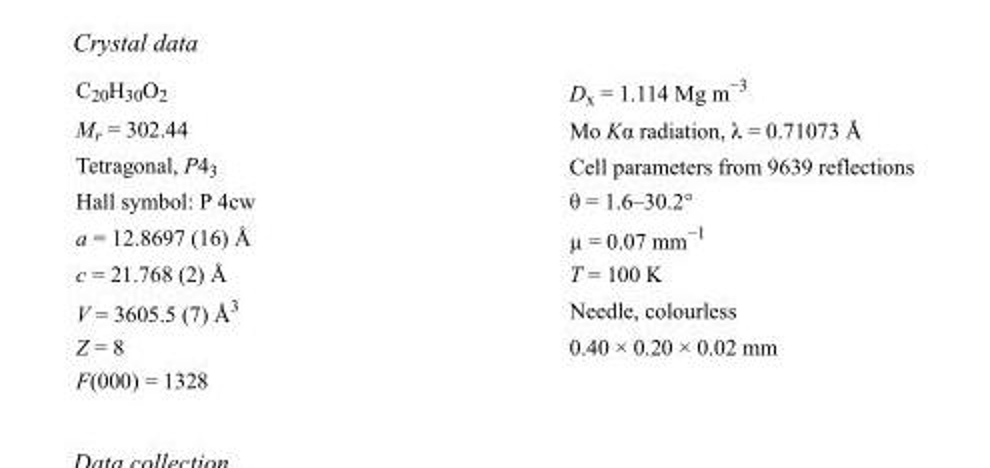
<table><tbody><tr><td>C<sub>20</sub>H<sub>30</sub>O<sub>2</sub></td><td>D<sub>x</sub> = 1.114 Mg m<sup>−3</sup></td></tr><tr><td>M<sub>r</sub> = 302.44</td><td>Mo Kα radiation, λ = 0.71073 Å</td></tr><tr><td>Tetragonal, P4<sub>3</sub></td><td>Cell parameters from 9639 reflections</td></tr><tr><td>Hall symbol: P 4cw</td><td>θ = 1.6–30.2°</td></tr><tr><td>a = 12.8697 (16) Å</td><td>µ = 0.07 mm<sup>−1</sup></td></tr><tr><td>c = 21.768 (2) Å</td><td>T = 100 K</td></tr><tr><td>V = 3605.5 (7) Å<sup>3</sup></td><td>Needle, colourless</td></tr><tr><td>Z = 8</td><td>0.40 × 0.20 × 0.02 mm</td></tr><tr><td>F(000) = 1328</td><td></td></tr></tbody></table>